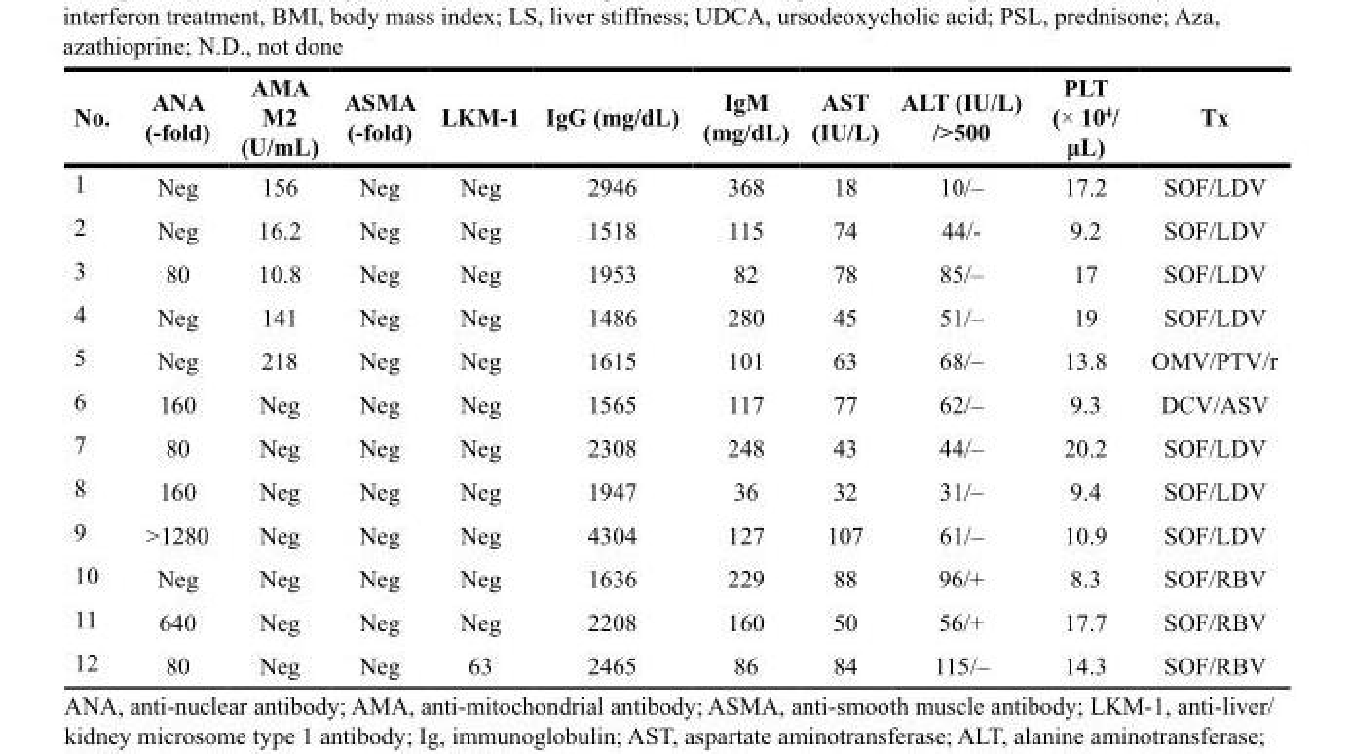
<table><thead><tr><td>No.</td><td>ANA (-fold)</td><td>AMA M2 (U/mL)</td><td>ASMA (-fold)</td><td>LKM-1</td><td>IgG (mg/dL)</td><td>IgM (mg/dL)</td><td>AST (IU/L)</td><td>ALT (IU/L) /&gt;500</td><td>PLT (× 10<sup>4</sup>/ μL)</td><td>Tx</td></tr></thead><tbody><tr><td>1</td><td>Neg</td><td>156</td><td>Neg</td><td>Neg</td><td>2946</td><td>368</td><td>18</td><td>10/–</td><td>17.2</td><td>SOF/LDV</td></tr><tr><td>2</td><td>Neg</td><td>16.2</td><td>Neg</td><td>Neg</td><td>1518</td><td>115</td><td>74</td><td>44/-</td><td>9.2</td><td>SOF/LDV</td></tr><tr><td>3</td><td>80</td><td>10.8</td><td>Neg</td><td>Neg</td><td>1953</td><td>82</td><td>78</td><td>85/–</td><td>17</td><td>SOF/LDV</td></tr><tr><td>4</td><td>Neg</td><td>141</td><td>Neg</td><td>Neg</td><td>1486</td><td>280</td><td>45</td><td>51/–</td><td>19</td><td>SOF/LDV</td></tr><tr><td>5</td><td>Neg</td><td>218</td><td>Neg</td><td>Neg</td><td>1615</td><td>101</td><td>63</td><td>68/–</td><td>13.8</td><td>OMV/PTV/r</td></tr><tr><td>6</td><td>160</td><td>Neg</td><td>Neg</td><td>Neg</td><td>1565</td><td>117</td><td>77</td><td>62/–</td><td>9.3</td><td>DCV/ASV</td></tr><tr><td>7</td><td>80</td><td>Neg</td><td>Neg</td><td>Neg</td><td>2308</td><td>248</td><td>43</td><td>44/–</td><td>20.2</td><td>SOF/LDV</td></tr><tr><td>8</td><td>160</td><td>Neg</td><td>Neg</td><td>Neg</td><td>1947</td><td>36</td><td>32</td><td>31/–</td><td>9.4</td><td>SOF/LDV</td></tr><tr><td>9</td><td>&gt;1280</td><td>Neg</td><td>Neg</td><td>Neg</td><td>4304</td><td>127</td><td>107</td><td>61/–</td><td>10.9</td><td>SOF/LDV</td></tr><tr><td>10</td><td>Neg</td><td>Neg</td><td>Neg</td><td>Neg</td><td>1636</td><td>229</td><td>88</td><td>96/+</td><td>8.3</td><td>SOF/RBV</td></tr><tr><td>11</td><td>640</td><td>Neg</td><td>Neg</td><td>Neg</td><td>2208</td><td>160</td><td>50</td><td>56/+</td><td>17.7</td><td>SOF/RBV</td></tr><tr><td>12</td><td>80</td><td>Neg</td><td>Neg</td><td>63</td><td>2465</td><td>86</td><td>84</td><td>115/–</td><td>14.3</td><td>SOF/RBV</td></tr></tbody></table>